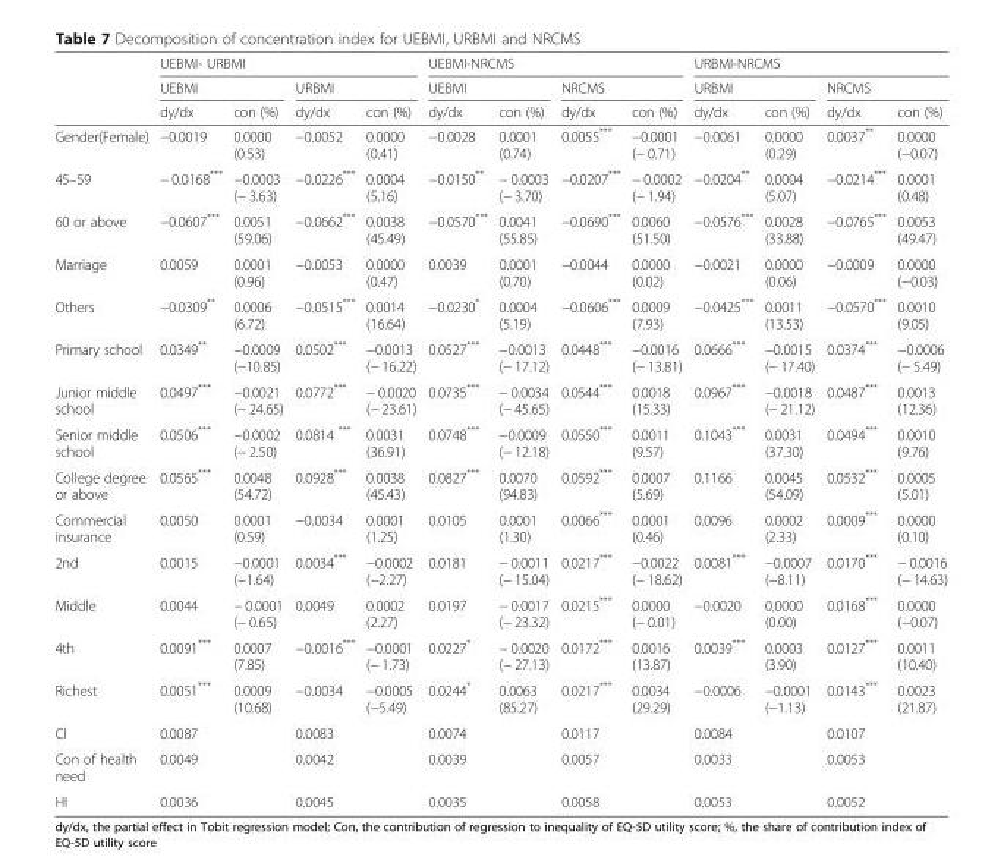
<table><thead><tr><td rowspan="3"></td><td colspan="4">UEBMI- URBMI</td><td colspan="4">UEBMI-NRCMS</td><td colspan="4">URBMI-NRCMS</td></tr><tr><td colspan="2">UEBMI</td><td colspan="2">URBMI</td><td colspan="2">UEBMI</td><td colspan="2">NRCMS</td><td colspan="2">URBMI</td><td colspan="2">NRCMS</td></tr><tr><td>dy/dx</td><td>con (%)</td><td>dy/dx</td><td>con (%)</td><td>dy/dx</td><td>con (%)</td><td>dy/dx</td><td>con (%)</td><td>dy/dx</td><td>con (%)</td><td>dy/dx</td><td>con (%)</td></tr></thead><tbody><tr><td>Gender(Female)</td><td>−0.0019</td><td>0.0000 (0.53)</td><td>−0.0052</td><td>0.0000 (0.41)</td><td>−0.0028</td><td>0.0001 (0.74)</td><td>0.0055***</td><td>−0.0001 (− 0.71)</td><td>−0.0061</td><td>0.0000 (0.29)</td><td>0.0037**</td><td>0.0000 (−0.07)</td></tr><tr><td>45–59</td><td>− 0.0168***</td><td>−0.0003 (− 3.63)</td><td>−0.0226***</td><td>0.0004 (5.16)</td><td>−0.0150**</td><td>− 0.0003 (− 3.70)</td><td>−0.0207***</td><td>− 0.0002 (− 1.94)</td><td>−0.0204**</td><td>0.0004 (5.07)</td><td>−0.0214***</td><td>0.0001 (0.48)</td></tr><tr><td>60 or above</td><td>−0.0607***</td><td>0.0051 (59.06)</td><td>−0.0662***</td><td>0.0038 (45.49)</td><td>−0.0570***</td><td>0.0041 (55.85)</td><td>−0.0690***</td><td>0.0060 (51.50)</td><td>−0.0576***</td><td>0.0028 (33.88)</td><td>−0.0765***</td><td>0.0053 (49.47)</td></tr><tr><td>Marriage</td><td>0.0059</td><td>0.0001 (0.96)</td><td>−0.0053</td><td>0.0000 (0.47)</td><td>0.0039</td><td>0.0001 (0.70)</td><td>−0.0044</td><td>0.0000 (0.02)</td><td>−0.0021</td><td>0.0000 (0.06)</td><td>−0.0009</td><td>0.0000 (−0.03)</td></tr><tr><td>Others</td><td>−0.0309**</td><td>0.0006 (6.72)</td><td>−0.0515***</td><td>0.0014 (16.64)</td><td>−0.0230*</td><td>0.0004 (5.19)</td><td>−0.0606***</td><td>0.0009 (7.93)</td><td>−0.0425***</td><td>0.0011 (13.53)</td><td>−0.0570***</td><td>0.0010 (9.05)</td></tr><tr><td>Primary school</td><td>0.0349**</td><td>−0.0009 (−10.85)</td><td>0.0502***</td><td>−0.0013 (− 16.22)</td><td>0.0527***</td><td>−0.0013 (− 17.12)</td><td>0.0448***</td><td>−0.0016 (− 13.81)</td><td>0.0666***</td><td>−0.0015 (− 17.40)</td><td>0.0374***</td><td>−0.0006 (− 5.49)</td></tr><tr><td>Junior middle school</td><td>0.0497***</td><td>−0.0021 (− 24.65)</td><td>0.0772***</td><td>− 0.0020 (− 23.61)</td><td>0.0735***</td><td>− 0.0034 (− 45.65)</td><td>0.0544***</td><td>0.0018 (15.33)</td><td>0.0967***</td><td>−0.0018 (− 21.12)</td><td>0.0487***</td><td>0.0013 (12.36)</td></tr><tr><td>Senior middle school</td><td>0.0506***</td><td>−0.0002 (− 2.50)</td><td>0.0814 ***</td><td>0.0031 (36.91)</td><td>0.0748***</td><td>−0.0009 (− 12.18)</td><td>0.0550***</td><td>0.0011 (9.57)</td><td>0.1043***</td><td>0.0031 (37.30)</td><td>0.0494***</td><td>0.0010 (9.76)</td></tr><tr><td>College degree or above</td><td>0.0565***</td><td>0.0048 (54.72)</td><td>0.0928***</td><td>0.0038 (45.43)</td><td>0.0827***</td><td>0.0070 (94.83)</td><td>0.0592***</td><td>0.0007 (5.69)</td><td>0.1166</td><td>0.0045 (54.09)</td><td>0.0532***</td><td>0.0005 (5.01)</td></tr><tr><td>Commercial insurance</td><td>0.0050</td><td>0.0001 (0.59)</td><td>−0.0034</td><td>0.0001 (1.25)</td><td>0.0105</td><td>0.0001 (1.30)</td><td>0.0066***</td><td>0.0001 (0.46)</td><td>0.0096</td><td>0.0002 (2.33)</td><td>0.0009***</td><td>0.0000 (0.10)</td></tr><tr><td>2nd</td><td>0.0015</td><td>−0.0001 (−1.64)</td><td>0.0034***</td><td>−0.0002 (−2.27)</td><td>0.0181</td><td>− 0.0011 (− 15.04)</td><td>0.0217***</td><td>−0.0022 (− 18.62)</td><td>0.0081***</td><td>−0.0007 (−8.11)</td><td>0.0170***</td><td>− 0.0016 (− 14.63)</td></tr><tr><td>Middle</td><td>0.0044</td><td>− 0.0001 (− 0.65)</td><td>0.0049</td><td>0.0002 (2.27)</td><td>0.0197</td><td>− 0.0017 (− 23.32)</td><td>0.0215***</td><td>0.0000 (− 0.01)</td><td>−0.0020</td><td>0.0000 (0.00)</td><td>0.0168***</td><td>0.0000 (−0.07)</td></tr><tr><td>4th</td><td>0.0091***</td><td>0.0007 (7.85)</td><td>−0.0016***</td><td>−0.0001 (− 1.73)</td><td>0.0227*</td><td>− 0.0020 (− 27.13)</td><td>0.0172***</td><td>0.0016 (13.87)</td><td>0.0039***</td><td>0.0003 (3.90)</td><td>0.0127***</td><td>0.0011 (10.40)</td></tr><tr><td>Richest</td><td>0.0051***</td><td>0.0009 (10.68)</td><td>−0.0034</td><td>−0.0005 (−5.49)</td><td>0.0244*</td><td>0.0063 (85.27)</td><td>0.0217***</td><td>0.0034 (29.29)</td><td>−0.0006</td><td>−0.0001 (−1.13)</td><td>0.0143***</td><td>0.0023 (21.87)</td></tr><tr><td>CI</td><td colspan="2">0.0087</td><td colspan="2">0.0083</td><td colspan="2">0.0074</td><td colspan="2">0.0117</td><td colspan="2">0.0084</td><td colspan="2">0.0107</td></tr><tr><td>Con of health need</td><td colspan="2">0.0049</td><td colspan="2">0.0042</td><td colspan="2">0.0039</td><td colspan="2">0.0057</td><td colspan="2">0.0033</td><td colspan="2">0.0053</td></tr><tr><td>HI</td><td colspan="2">0.0036</td><td colspan="2">0.0045</td><td colspan="2">0.0035</td><td colspan="2">0.0058</td><td colspan="2">0.0053</td><td colspan="2">0.0052</td></tr></tbody></table>